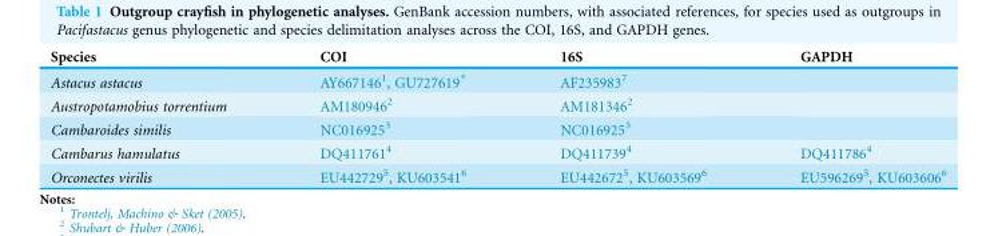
<table><thead><tr><td>Species</td><td>COI</td><td>16S</td><td>GAPDH</td></tr></thead><tbody><tr><td>Astacus astacus</td><td>AY667146<sup>1</sup>, GU727619*</td><td>AF235983<sup>7</sup></td><td></td></tr><tr><td>Austropotamobius torrentium</td><td>AM180946<sup>2</sup></td><td>AM181346<sup>2</sup></td><td></td></tr><tr><td>Cambaroides similis</td><td>NC016925<sup>3</sup></td><td>NC016925<sup>3</sup></td><td></td></tr><tr><td>Cambarus hamulatus</td><td>DQ411761<sup>4</sup></td><td>DQ411739<sup>4</sup></td><td>DQ411786<sup>4</sup></td></tr><tr><td>Orconectes virilis</td><td>EU442729<sup>5</sup>, KU603541<sup>6</sup></td><td>EU442672<sup>5</sup>, KU603569<sup>6</sup></td><td>EU596269<sup>5</sup>, KU603606<sup>6</sup></td></tr></tbody></table>